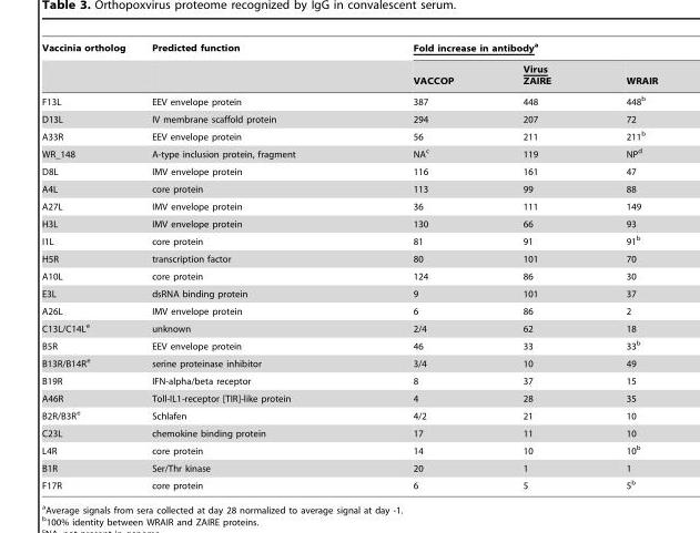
<table><thead><tr><td rowspan="2">Vaccinia ortholog</td><td rowspan="2">Predicted function</td><td colspan="3">Fold increase in antibodya</td></tr><tr><td>VACCOP</td><td>Virus ZAIRE</td><td>WRAIR</td></tr></thead><tbody><tr><td>F13L</td><td>EEV envelope protein</td><td>387</td><td>448</td><td>448<sup>b</sup></td></tr><tr><td>D13L</td><td>IV membrane scaffold protein</td><td>294</td><td>207</td><td>72</td></tr><tr><td>A33R</td><td>EEV envelope protein</td><td>56</td><td>211</td><td>211<sup>b</sup></td></tr><tr><td>WR_148</td><td>A-type inclusion protein, fragment</td><td>NA<sup>c</sup></td><td>119</td><td>NP<sup>d</sup></td></tr><tr><td>D8L</td><td>IMV envelope protein</td><td>116</td><td>161</td><td>47</td></tr><tr><td>A4L</td><td>core protein</td><td>113</td><td>99</td><td>88</td></tr><tr><td>A27L</td><td>IMV envelope protein</td><td>36</td><td>111</td><td>149</td></tr><tr><td>H3L</td><td>IMV envelope protein</td><td>130</td><td>66</td><td>93</td></tr><tr><td>I1L</td><td>core protein</td><td>81</td><td>91</td><td>91<sup>b</sup></td></tr><tr><td>H5R</td><td>transcription factor</td><td>80</td><td>101</td><td>70</td></tr><tr><td>A10L</td><td>core protein</td><td>124</td><td>86</td><td>30</td></tr><tr><td>E3L</td><td>dsRNA binding protein</td><td>9</td><td>101</td><td>37</td></tr><tr><td>A26L</td><td>IMV envelope protein</td><td>6</td><td>86</td><td>2</td></tr><tr><td>C13L/C14L<sup>e</sup></td><td>unknown</td><td>2/4</td><td>62</td><td>18</td></tr><tr><td>B5R</td><td>EEV envelope protein</td><td>46</td><td>33</td><td>33<sup>b</sup></td></tr><tr><td>B13R/B14R<sup>e</sup></td><td>serine proteinase inhibitor</td><td>3/4</td><td>10</td><td>49</td></tr><tr><td>B19R</td><td>IFN-alpha/beta receptor</td><td>8</td><td>37</td><td>15</td></tr><tr><td>A46R</td><td>Toll-IL1-receptor [TIR]-like protein</td><td>4</td><td>28</td><td>35</td></tr><tr><td>B2R/B3R<sup>e</sup></td><td>Schlafen</td><td>4/2</td><td>21</td><td>10</td></tr><tr><td>C23L</td><td>chemokine binding protein</td><td>17</td><td>11</td><td>10</td></tr><tr><td>L4R</td><td>core protein</td><td>14</td><td>10</td><td>10<sup>b</sup></td></tr><tr><td>B1R</td><td>Ser/Thr kinase</td><td>20</td><td>1</td><td>1</td></tr><tr><td>F17R</td><td>core protein</td><td>6</td><td>5</td><td>5<sup>b</sup></td></tr></tbody></table>